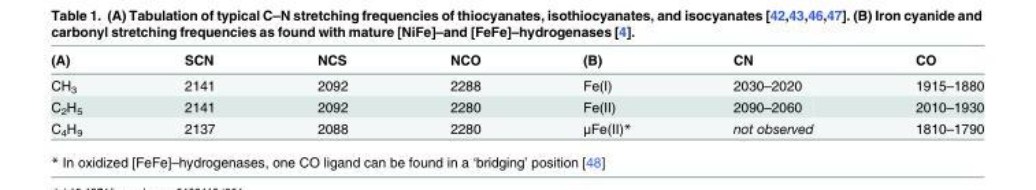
<table><thead><tr><td>(A)</td><td>SCN</td><td>NCS</td><td>NCO</td><td>(B)</td><td>CN</td><td>CO</td></tr></thead><tbody><tr><td>CH<sub>3</sub></td><td>2141</td><td>2092</td><td>2288</td><td>Fe(I)</td><td>2030–2020</td><td>1915–1880</td></tr><tr><td>C<sub>2</sub>H<sub>5</sub></td><td>2141</td><td>2092</td><td>2280</td><td>Fe(II)</td><td>2090–2060</td><td>2010–1930</td></tr><tr><td>C<sub>4</sub>H<sub>9</sub></td><td>2137</td><td>2088</td><td>2280</td><td>μFe(II)*</td><td>not observed</td><td>1810–1790</td></tr></tbody></table>